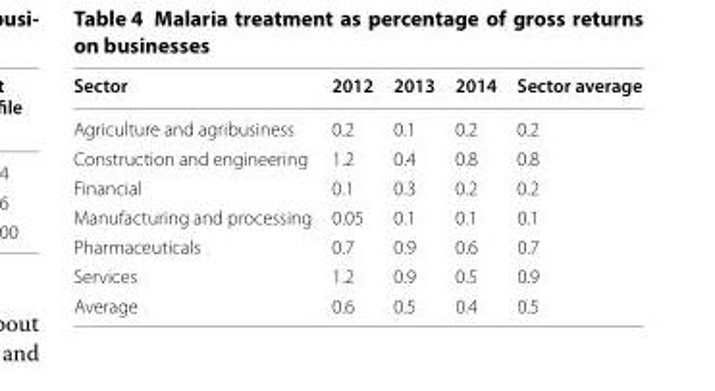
<table><thead><tr><td>Sector</td><td>2012</td><td>2013</td><td>2014</td><td>Sector average</td></tr></thead><tbody><tr><td>Agriculture and agribusiness</td><td>0.2</td><td>0.1</td><td>0.2</td><td>0.2</td></tr><tr><td>Construction and engineering</td><td>1.2</td><td>0.4</td><td>0.8</td><td>0.8</td></tr><tr><td>Financial</td><td>0.1</td><td>0.3</td><td>0.2</td><td>0.2</td></tr><tr><td>Manufacturing and processing</td><td>0.05</td><td>0.1</td><td>0.1</td><td>0.1</td></tr><tr><td>Pharmaceuticals</td><td>0.7</td><td>0.9</td><td>0.6</td><td>0.7</td></tr><tr><td>Services</td><td>1.2</td><td>0.9</td><td>0.5</td><td>0.9</td></tr><tr><td>Average</td><td>0.6</td><td>0.5</td><td>0.4</td><td>0.5</td></tr></tbody></table>